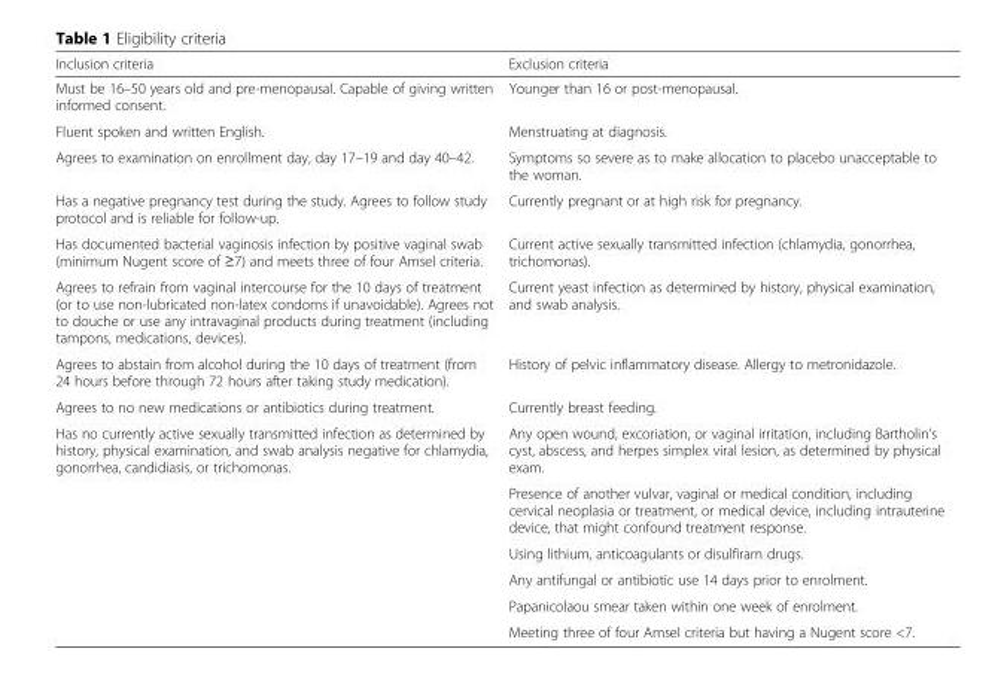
<table><thead><tr><td>Inclusion criteria</td><td>Exclusion criteria</td></tr></thead><tbody><tr><td>Must be 16–50 years old and pre-menopausal. Capable of giving written informed consent.</td><td>Younger than 16 or post-menopausal.</td></tr><tr><td>Fluent spoken and written English.</td><td>Menstruating at diagnosis.</td></tr><tr><td>Agrees to examination on enrollment day, day 17–19 and day 40–42.</td><td>Symptoms so severe as to make allocation to placebo unacceptable to the woman.</td></tr><tr><td>Has a negative pregnancy test during the study. Agrees to follow study protocol and is reliable for follow-up.</td><td>Currently pregnant or at high risk for pregnancy.</td></tr><tr><td>Has documented bacterial vaginosis infection by positive vaginal swab (minimum Nugent score of ≥7) and meets three of four Amsel criteria.</td><td>Current active sexually transmitted infection (chlamydia, gonorrhea, trichomonas).</td></tr><tr><td>Agrees to refrain from vaginal intercourse for the 10 days of treatment (or to use non-lubricated non-latex condoms if unavoidable). Agrees not to douche or use any intravaginal products during treatment (including tampons, medications, devices).</td><td>Current yeast infection as determined by history, physical examination, and swab analysis.</td></tr><tr><td>Agrees to abstain from alcohol during the 10 days of treatment (from 24 hours before through 72 hours after taking study medication).</td><td>History of pelvic inflammatory disease. Allergy to metronidazole.</td></tr><tr><td>Agrees to no new medications or antibiotics during treatment.</td><td>Currently breast feeding.</td></tr><tr><td rowspan="6">Has no currently active sexually transmitted infection as determined by history, physical examination, and swab analysis negative for chlamydia, gonorrhea, candidiasis, or trichomonas.</td><td>Any open wound, excoriation, or vaginal irritation, including Bartholin’s cyst, abscess, and herpes simplex viral lesion, as determined by physical exam.</td></tr><tr><td>Presence of another vulvar, vaginal or medical condition, including cervical neoplasia or treatment, or medical device, including intrauterine device, that might confound treatment response.</td></tr><tr><td>Using lithium, anticoagulants or disulfiram drugs.</td></tr><tr><td>Any antifungal or antibiotic use 14 days prior to enrolment.</td></tr><tr><td>Papanicolaou smear taken within one week of enrolment.</td></tr><tr><td>Meeting three of four Amsel criteria but having a Nugent score &lt;7.</td></tr></tbody></table>